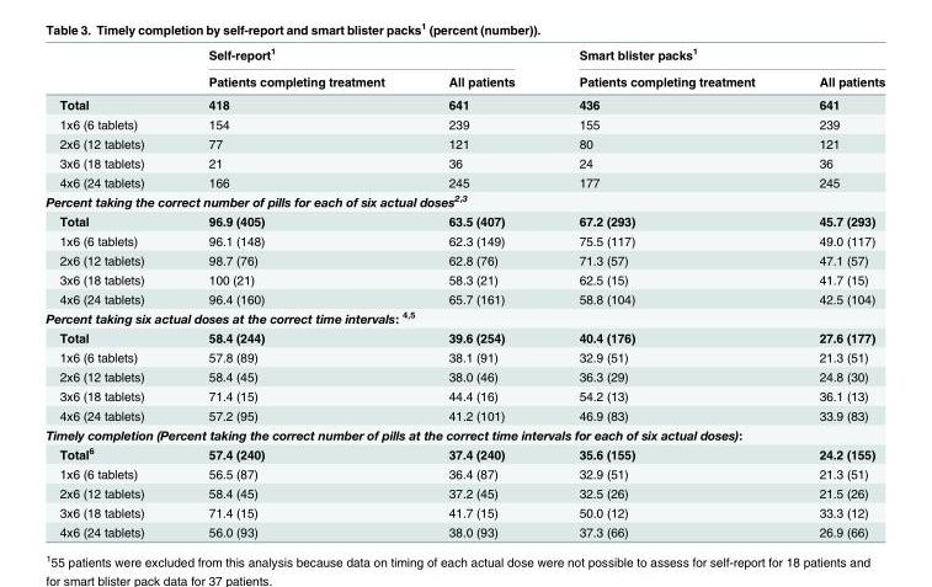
<table><thead><tr><td rowspan="2"></td><td colspan="2">Self-report<sup>1</sup></td><td colspan="2">Smart blister packs<sup>1</sup></td></tr><tr><td>Patients completing treatment</td><td>All patients</td><td>Patients completing treatment</td><td>All patients</td></tr></thead><tbody><tr><td>Total</td><td>418</td><td>641</td><td>436</td><td>641</td></tr><tr><td>1x6 (6 tablets)</td><td>154</td><td>239</td><td>155</td><td>239</td></tr><tr><td>2x6 (12 tablets)</td><td>77</td><td>121</td><td>80</td><td>121</td></tr><tr><td>3x6 (18 tablets)</td><td>21</td><td>36</td><td>24</td><td>36</td></tr><tr><td>4x6 (24 tablets)</td><td>166</td><td>245</td><td>177</td><td>245</td></tr><tr><td colspan="5">Percent taking the correct number of pills for each of six actual doses<sup>2,3</sup></td></tr><tr><td>Total</td><td>96.9 (405)</td><td>63.5 (407)</td><td>67.2 (293)</td><td>45.7 (293)</td></tr><tr><td>1x6 (6 tablets)</td><td>96.1 (148)</td><td>62.3 (149)</td><td>75.5 (117)</td><td>49.0 (117)</td></tr><tr><td>2x6 (12 tablets)</td><td>98.7 (76)</td><td>62.8 (76)</td><td>71.3 (57)</td><td>47.1 (57)</td></tr><tr><td>3x6 (18 tablets)</td><td>100 (21)</td><td>58.3 (21)</td><td>62.5 (15)</td><td>41.7 (15)</td></tr><tr><td>4x6 (24 tablets)</td><td>96.4 (160)</td><td>65.7 (161)</td><td>58.8 (104)</td><td>42.5 (104)</td></tr><tr><td colspan="5">Percent taking six actual doses at the correct time intervals: <sup>4,5</sup></td></tr><tr><td>Total</td><td>58.4 (244)</td><td>39.6 (254)</td><td>40.4 (176)</td><td>27.6 (177)</td></tr><tr><td>1x6 (6 tablets)</td><td>57.8 (89)</td><td>38.1 (91)</td><td>32.9 (51)</td><td>21.3 (51)</td></tr><tr><td>2x6 (12 tablets)</td><td>58.4 (45)</td><td>38.0 (46)</td><td>36.3 (29)</td><td>24.8 (30)</td></tr><tr><td>3x6 (18 tablets)</td><td>71.4 (15)</td><td>44.4 (16)</td><td>54.2 (13)</td><td>36.1 (13)</td></tr><tr><td>4x6 (24 tablets)</td><td>57.2 (95)</td><td>41.2 (101)</td><td>46.9 (83)</td><td>33.9 (83)</td></tr><tr><td colspan="5">Timely completion (Percent taking the correct number of pills at the correct time intervals for each of six actual doses):</td></tr><tr><td>Total<sup>6</sup></td><td>57.4 (240)</td><td>37.4 (240)</td><td>35.6 (155)</td><td>24.2 (155)</td></tr><tr><td>1x6 (6 tablets)</td><td>56.5 (87)</td><td>36.4 (87)</td><td>32.9 (51)</td><td>21.3 (51)</td></tr><tr><td>2x6 (12 tablets)</td><td>58.4 (45)</td><td>37.2 (45)</td><td>32.5 (26)</td><td>21.5 (26)</td></tr><tr><td>3x6 (18 tablets)</td><td>71.4 (15)</td><td>41.7 (15)</td><td>50.0 (12)</td><td>33.3 (12)</td></tr><tr><td>4x6 (24 tablets)</td><td>56.0 (93)</td><td>38.0 (93)</td><td>37.3 (66)</td><td>26.9 (66)</td></tr></tbody></table>